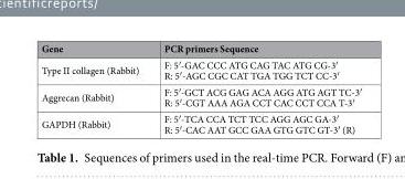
<table><thead><tr><td>Gene</td><td>PCR primers Sequence</td></tr></thead><tbody><tr><td>Type II collagen (Rabbit)</td><td>F: 5′-GAC CCC ATG CAG TAC ATG CG-3′ R: 5′-AGC CGC CAT TGA TGG TCT CC-3′</td></tr><tr><td>Aggrecan (Rabbit)</td><td>F: 5′-GCT ACG GAG ACA AGG ATG AGT TC-3′ R: 5′-CGT AAA AGA CCT CAC CCT CCA T-3′</td></tr><tr><td>GAPDH (Rabbit)</td><td>F: 5′-TCA CCA TCT TCC AGG AGC GA-3′ R: 5′-CAC AAT GCC GAA GTG GTC GT-3′ (R)</td></tr></tbody></table>